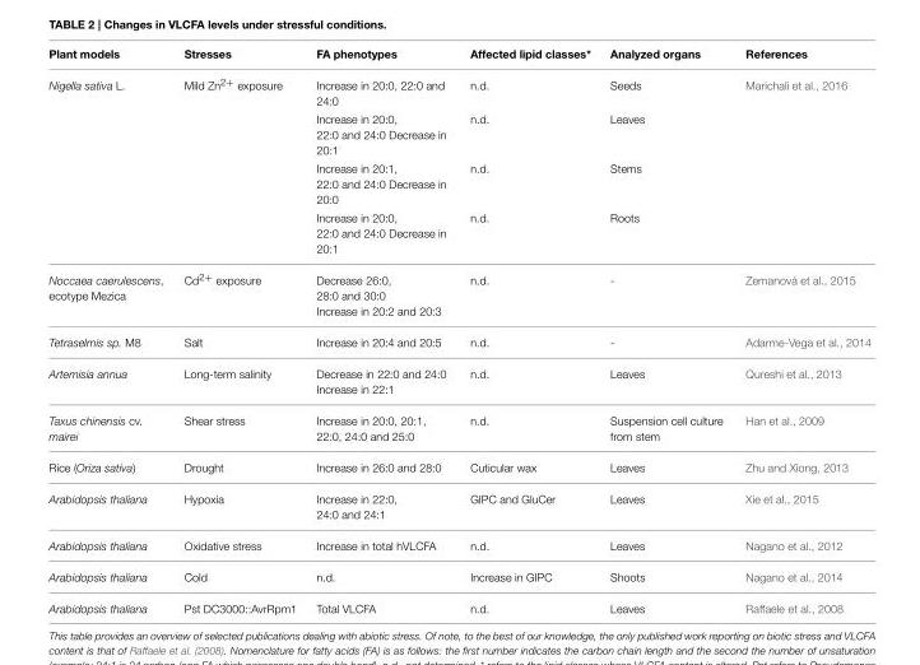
<table><thead><tr><td>Plant models</td><td>Stresses</td><td>FA phenotypes</td><td>Affected lipid classes*</td><td>Analyzed organs</td><td>References</td></tr></thead><tbody><tr><td rowspan="4">Nigella sativa L.</td><td>Mild Zn<sup>2+</sup> exposure</td><td>Increase in 20:0, 22:0 and 24:0</td><td>n.d.</td><td>Seeds</td><td>Marichali et al., 2016</td></tr><tr><td></td><td>Increase in 20:0, 22:0 and 24:0 Decrease in 20:1</td><td>n.d.</td><td>Leaves</td><td></td></tr><tr><td></td><td>Increase in 20:1, 22:0 and 24:0 Decrease in 20:0</td><td>n.d.</td><td>Stems</td><td></td></tr><tr><td></td><td>Increase in 20:0, 22:0 and 24:0 Decrease in 20:1</td><td>n.d.</td><td>Roots</td><td></td></tr><tr><td>Noccaea caerulescens, ecotype Mezica</td><td>Cd<sup>2+</sup> exposure</td><td>Decrease 26:0, 28:0 and 30:0 Increase in 20:2 and 20:3</td><td>n.d.</td><td>-</td><td>Zemanová et al., 2015</td></tr><tr><td>Tetraselmis sp. M8</td><td>Salt</td><td>Increase in 20:4 and 20:5</td><td>n.d.</td><td>-</td><td>Adarme-Vega et al., 2014</td></tr><tr><td>Artemisia annua</td><td>Long-term salinity</td><td>Decrease in 22:0 and 24:0 Increase in 22:1</td><td>n.d.</td><td>Leaves</td><td>Qureshi et al., 2013</td></tr><tr><td>Taxus chinensis cv. mairei</td><td>Shear stress</td><td>Increase in 20:0, 20:1, 22:0, 24:0 and 25:0</td><td>n.d.</td><td>Suspension cell culture from stem</td><td>Han et al., 2009</td></tr><tr><td>Rice (Oriza sativa)</td><td>Drought</td><td>Increase in 26:0 and 28:0</td><td>Cuticular wax</td><td>Leaves</td><td>Zhu and Xiong, 2013</td></tr><tr><td>Arabidopsis thaliana</td><td>Hypoxia</td><td>Increase in 22:0, 24:0 and 24:1</td><td>GIPC and GluCer</td><td>Leaves</td><td>Xie et al., 2015</td></tr><tr><td>Arabidopsis thaliana</td><td>Oxidative stress</td><td>Increase in total hVLCFA</td><td>n.d.</td><td>Leaves</td><td>Nagano et al., 2012</td></tr><tr><td>Arabidopsis thaliana</td><td>Cold</td><td>n.d.</td><td>Increase in GIPC</td><td>Shoots</td><td>Nagano et al., 2014</td></tr><tr><td>Arabidopsis thaliana</td><td>Pst DC3000::AvrRpm1</td><td>Total VLCFA</td><td>n.d.</td><td>Leaves</td><td>Raffaele et al., 2008</td></tr></tbody></table>